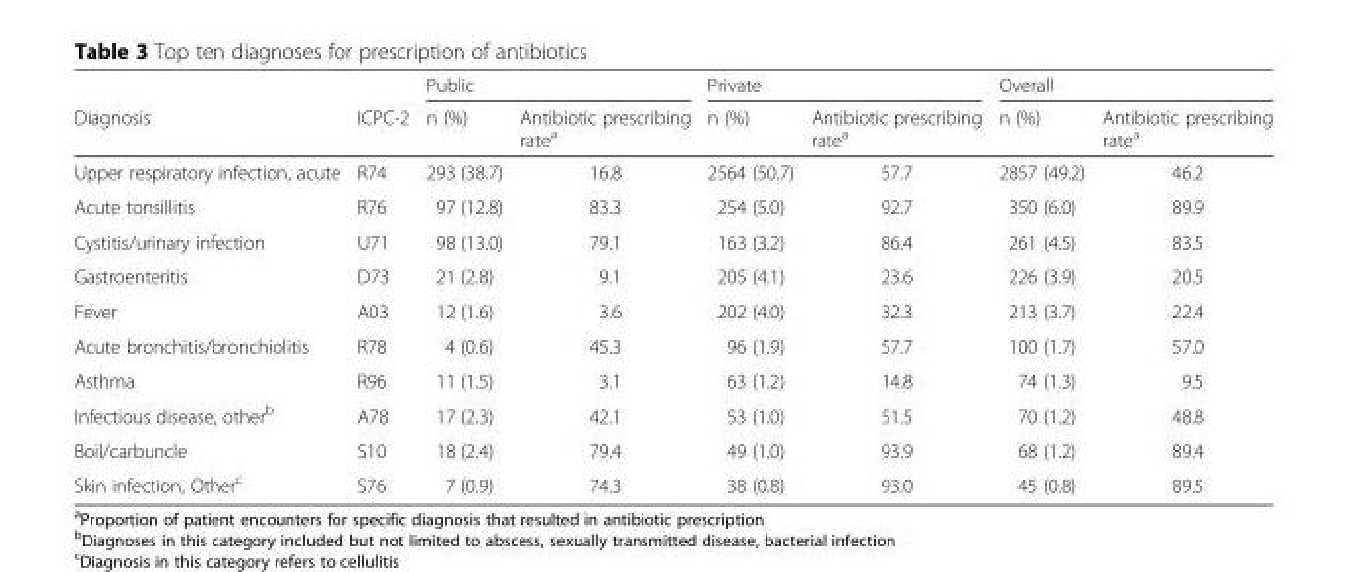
<table><thead><tr><td rowspan="2">Diagnosis</td><td rowspan="2">ICPC-2</td><td colspan="2">Public</td><td colspan="2">Private</td><td colspan="2">Overall</td></tr><tr><td>n (%)</td><td>Antibiotic prescribing rate<sup>a</sup></td><td>n (%)</td><td>Antibiotic prescribing rate<sup>a</sup></td><td>n (%)</td><td>Antibiotic prescribing rate<sup>a</sup></td></tr></thead><tbody><tr><td>Upper respiratory infection, acute</td><td>R74</td><td>293 (38.7)</td><td>16.8</td><td>2564 (50.7)</td><td>57.7</td><td>2857 (49.2)</td><td>46.2</td></tr><tr><td>Acute tonsillitis</td><td>R76</td><td>97 (12.8)</td><td>83.3</td><td>254 (5.0)</td><td>92.7</td><td>350 (6.0)</td><td>89.9</td></tr><tr><td>Cystitis/urinary infection</td><td>U71</td><td>98 (13.0)</td><td>79.1</td><td>163 (3.2)</td><td>86.4</td><td>261 (4.5)</td><td>83.5</td></tr><tr><td>Gastroenteritis</td><td>D73</td><td>21 (2.8)</td><td>9.1</td><td>205 (4.1)</td><td>23.6</td><td>226 (3.9)</td><td>20.5</td></tr><tr><td>Fever</td><td>A03</td><td>12 (1.6)</td><td>3.6</td><td>202 (4.0)</td><td>32.3</td><td>213 (3.7)</td><td>22.4</td></tr><tr><td>Acute bronchitis/bronchiolitis</td><td>R78</td><td>4 (0.6)</td><td>45.3</td><td>96 (1.9)</td><td>57.7</td><td>100 (1.7)</td><td>57.0</td></tr><tr><td>Asthma</td><td>R96</td><td>11 (1.5)</td><td>3.1</td><td>63 (1.2)</td><td>14.8</td><td>74 (1.3)</td><td>9.5</td></tr><tr><td>Infectious disease, other<sup>b</sup></td><td>A78</td><td>17 (2.3)</td><td>42.1</td><td>53 (1.0)</td><td>51.5</td><td>70 (1.2)</td><td>48.8</td></tr><tr><td>Boil/carbuncle</td><td>S10</td><td>18 (2.4)</td><td>79.4</td><td>49 (1.0)</td><td>93.9</td><td>68 (1.2)</td><td>89.4</td></tr><tr><td>Skin infection, Other<sup>c</sup></td><td>S76</td><td>7 (0.9)</td><td>74.3</td><td>38 (0.8)</td><td>93.0</td><td>45 (0.8)</td><td>89.5</td></tr></tbody></table>